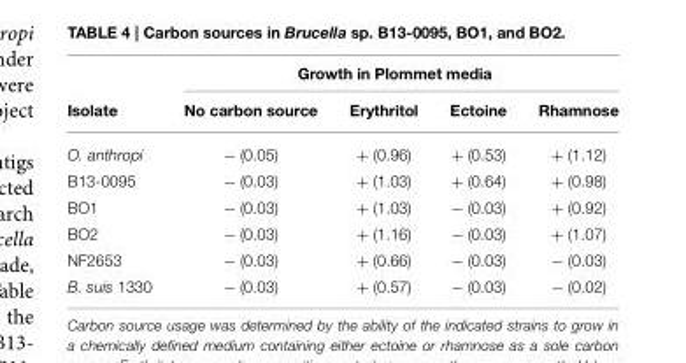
<table><thead><tr><td rowspan="2">Isolate</td><td colspan="4">Growth in Plommet media</td></tr><tr><td>No carbon source</td><td>Erythritol</td><td>Ectoine</td><td>Rhamnose</td></tr></thead><tbody><tr><td>O. anthropi</td><td>− (0.05)</td><td>+ (0.96)</td><td>+ (0.53)</td><td>+ (1.12)</td></tr><tr><td>B13-0095</td><td>− (0.03)</td><td>+ (1.03)</td><td>+ (0.64)</td><td>+ (0.98)</td></tr><tr><td>BO1</td><td>− (0.03)</td><td>+ (1.03)</td><td>− (0.03)</td><td>+ (0.92)</td></tr><tr><td>BO2</td><td>− (0.03)</td><td>+ (1.16)</td><td>− (0.03)</td><td>+ (1.07)</td></tr><tr><td>NF2653</td><td>− (0.03)</td><td>+ (0.66)</td><td>− (0.03)</td><td>− (0.03)</td></tr><tr><td>B. suis 1330</td><td>− (0.03)</td><td>+ (0.57)</td><td>− (0.03)</td><td>− (0.02)</td></tr></tbody></table>